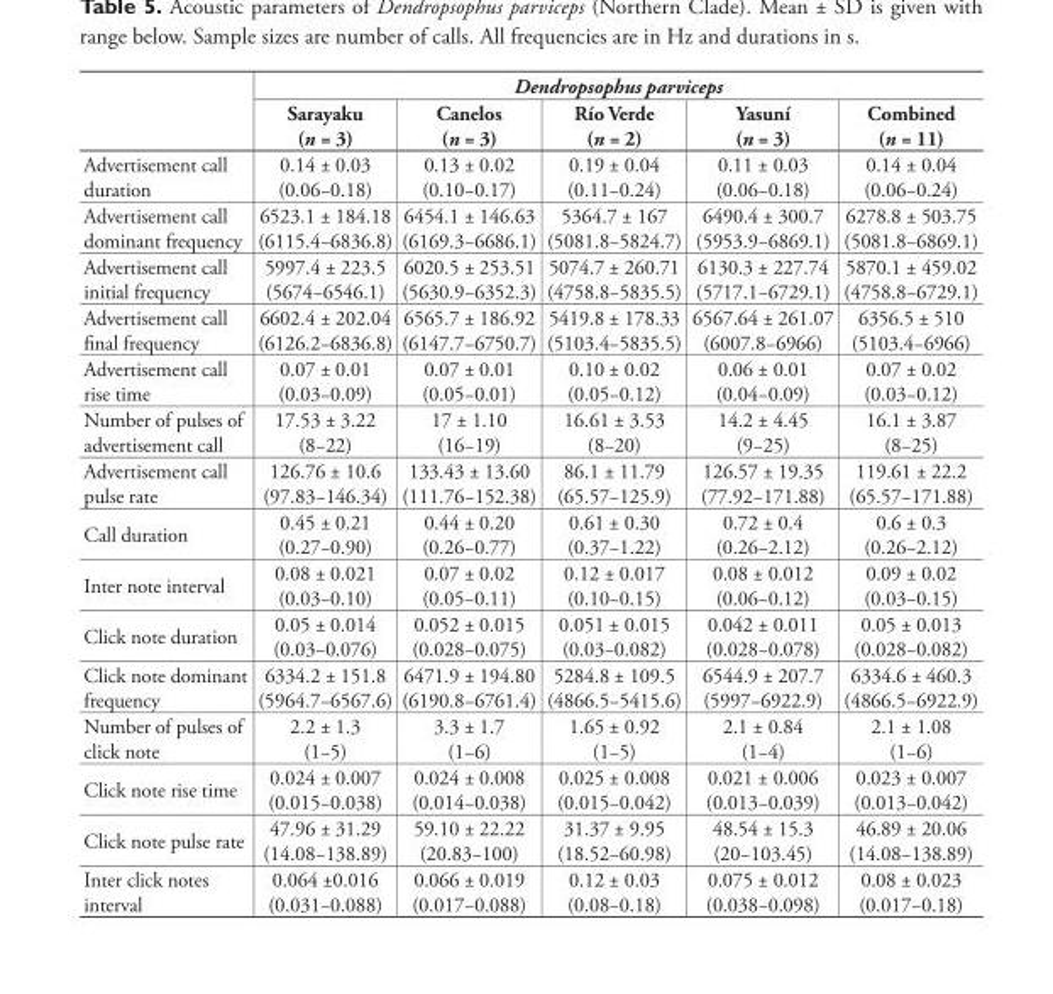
<table><thead><tr><td rowspan="2"></td><td colspan="5">Dendropsophus parviceps</td></tr><tr><td>Sarayaku (n = 3)</td><td>Canelos (n = 3)</td><td>Río Verde (n = 2)</td><td>Yasuní (n = 3)</td><td>Combined (n = 11)</td></tr></thead><tbody><tr><td>Advertisement call duration</td><td>0.14 ± 0.03 (0.06−0.18)</td><td>0.13 ± 0.02 (0.10−0.17)</td><td>0.19 ± 0.04 (0.11−0.24)</td><td>0.11 ± 0.03 (0.06−0.18)</td><td>0.14 ± 0.04 (0.06−0.24)</td></tr><tr><td>Advertisement call dominant frequency</td><td>6523.1 ± 184.18 (6115.4−6836.8)</td><td>6454.1 ± 146.63 (6169.3−6686.1)</td><td>5364.7 ± 167 (5081.8−5824.7)</td><td>6490.4 ± 300.7 (5953.9−6869.1)</td><td>6278.8 ± 503.75 (5081.8−6869.1)</td></tr><tr><td>Advertisement call initial frequency</td><td>5997.4 ± 223.5 (5674−6546.1)</td><td>6020.5 ± 253.51 (5630.9−6352.3)</td><td>5074.7 ± 260.71 (4758.8−5835.5)</td><td>6130.3 ± 227.74 (5717.1−6729.1)</td><td>5870.1 ± 459.02 (4758.8−6729.1)</td></tr><tr><td>Advertisement call final frequency</td><td>6602.4 ± 202.04 (6126.2−6836.8)</td><td>6565.7 ± 186.92 (6147.7−6750.7)</td><td>5419.8 ± 178.33 (5103.4−5835.5)</td><td>6567.64 ± 261.07 (6007.8−6966)</td><td>6356.5 ± 510 (5103.4−6966)</td></tr><tr><td>Advertisement call rise time</td><td>0.07 ± 0.01 (0.03−0.09)</td><td>0.07 ± 0.01 (0.05−0.01)</td><td>0.10 ± 0.02 (0.05−0.12)</td><td>0.06 ± 0.01 (0.04−0.09)</td><td>0.07 ± 0.02 (0.03−0.12)</td></tr><tr><td>Number of pulses of advertisement call</td><td>17.53 ± 3.22 (8−22)</td><td>17 ± 1.10 (16−19)</td><td>16.61 ± 3.53 (8−20)</td><td>14.2 ± 4.45 (9−25)</td><td>16.1 ± 3.87 (8−25)</td></tr><tr><td>Advertisement call pulse rate</td><td>126.76 ± 10.6 (97.83−146.34)</td><td>133.43 ± 13.60 (111.76−152.38)</td><td>86.1 ± 11.79 (65.57−125.9)</td><td>126.57 ± 19.35 (77.92−171.88)</td><td>119.61 ± 22.2 (65.57−171.88)</td></tr><tr><td>Call duration</td><td>0.45 ± 0.21 (0.27−0.90)</td><td>0.44 ± 0.20 (0.26−0.77)</td><td>0.61 ± 0.30 (0.37−1.22)</td><td>0.72 ± 0.4 (0.26−2.12)</td><td>0.6 ± 0.3 (0.26−2.12)</td></tr><tr><td>Inter note interval</td><td>0.08 ± 0.021 (0.03−0.10)</td><td>0.07 ± 0.02 (0.05−0.11)</td><td>0.12 ± 0.017 (0.10−0.15)</td><td>0.08 ± 0.012 (0.06−0.12)</td><td>0.09 ± 0.02 (0.03−0.15)</td></tr><tr><td>Click note duration</td><td>0.05 ± 0.014 (0.03−0.076)</td><td>0.052 ± 0.015 (0.028−0.075)</td><td>0.051 ± 0.015 (0.03−0.082)</td><td>0.042 ± 0.011 (0.028−0.078)</td><td>0.05 ± 0.013 (0.028−0.082)</td></tr><tr><td>Click note dominant frequency</td><td>6334.2 ± 151.8 (5964.7−6567.6)</td><td>6471.9 ± 194.80 (6190.8−6761.4)</td><td>5284.8 ± 109.5 (4866.5−5415.6)</td><td>6544.9 ± 207.7 (5997−6922.9)</td><td>6334.6 ± 460.3 (4866.5−6922.9)</td></tr><tr><td>Number of pulses of click note</td><td>2.2 ± 1.3 (1−5)</td><td>3.3 ± 1.7 (1−6)</td><td>1.65 ± 0.92 (1−5)</td><td>2.1 ± 0.84 (1−4)</td><td>2.1 ± 1.08 (1−6)</td></tr><tr><td>Click note rise time</td><td>0.024 ± 0.007 (0.015−0.038)</td><td>0.024 ± 0.008 (0.014−0.038)</td><td>0.025 ± 0.008 (0.015−0.042)</td><td>0.021 ± 0.006 (0.013−0.039)</td><td>0.023 ± 0.007 (0.013−0.042)</td></tr><tr><td>Click note pulse rate</td><td>47.96 ± 31.29 (14.08−138.89)</td><td>59.10 ± 22.22 (20.83−100)</td><td>31.37 ± 9.95 (18.52−60.98)</td><td>48.54 ± 15.3 (20−103.45)</td><td>46.89 ± 20.06 (14.08−138.89)</td></tr><tr><td>Inter click notes interval</td><td>0.064 ±0.016 (0.031−0.088)</td><td>0.066 ± 0.019 (0.017−0.088)</td><td>0.12 ± 0.03 (0.08−0.18)</td><td>0.075 ± 0.012 (0.038−0.098)</td><td>0.08 ± 0.023 (0.017−0.18)</td></tr></tbody></table>